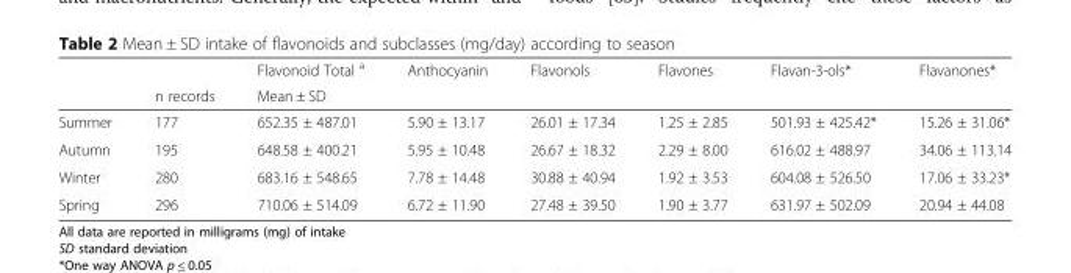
<table><thead><tr><td rowspan="2"></td><td rowspan="2">n records</td><td>Flavonoid Total <sup>a</sup></td><td>Anthocyanin</td><td>Flavonols</td><td>Flavones</td><td>Flavan-3-ols*</td><td>Flavanones*</td></tr><tr><td colspan="6">Mean ± SD</td></tr></thead><tbody><tr><td>Summer</td><td>177</td><td>652.35 ± 487.01</td><td>5.90 ± 13.17</td><td>26.01 ± 17.34</td><td>1.25 ± 2.85</td><td>501.93 ± 425.42*</td><td>15.26 ± 31.06*</td></tr><tr><td>Autumn</td><td>195</td><td>648.58 ± 400.21</td><td>5.95 ± 10.48</td><td>26.67 ± 18.32</td><td>2.29 ± 8.00</td><td>616.02 ± 488.97</td><td>34.06 ± 113.14</td></tr><tr><td>Winter</td><td>280</td><td>683.16 ± 548.65</td><td>7.78 ± 14.48</td><td>30.88 ± 40.94</td><td>1.92 ± 3.53</td><td>604.08 ± 526.50</td><td>17.06 ± 33.23*</td></tr><tr><td>Spring</td><td>296</td><td>710.06 ± 514.09</td><td>6.72 ± 11.90</td><td>27.48 ± 39.50</td><td>1.90 ± 3.77</td><td>631.97 ± 502.09</td><td>20.94 ± 44.08</td></tr></tbody></table>